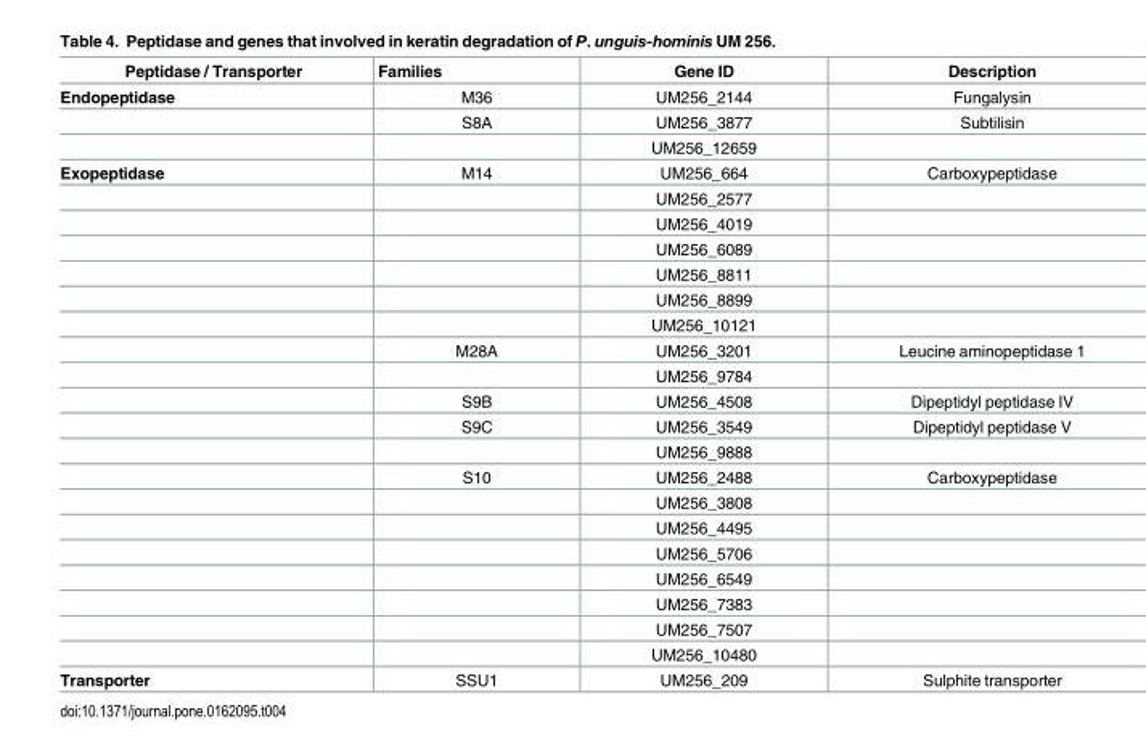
<table><thead><tr><td>Peptidase / Transporter</td><td>Families</td><td>Gene ID</td><td>Description</td></tr></thead><tbody><tr><td rowspan="3">Endopeptidase</td><td>M36</td><td>UM256_2144</td><td>Fungalysin</td></tr><tr><td>S8A</td><td>UM256_3877</td><td>Subtilisin</td></tr><tr><td></td><td>UM256_12659</td><td></td></tr><tr><td rowspan="20">Exopeptidase</td><td>M14</td><td>UM256_664</td><td>Carboxypeptidase</td></tr><tr><td></td><td>UM256_2577</td><td></td></tr><tr><td></td><td>UM256_4019</td><td></td></tr><tr><td></td><td>UM256_6089</td><td></td></tr><tr><td></td><td>UM256_8811</td><td></td></tr><tr><td></td><td>UM256_8899</td><td></td></tr><tr><td></td><td>UM256_10121</td><td></td></tr><tr><td>M28A</td><td>UM256_3201</td><td>Leucine aminopeptidase 1</td></tr><tr><td></td><td>UM256_9784</td><td></td></tr><tr><td>S9B</td><td>UM256_4508</td><td>Dipeptidyl peptidase IV</td></tr><tr><td>S9C</td><td>UM256_3549</td><td>Dipeptidyl peptidase V</td></tr><tr><td></td><td>UM256_9888</td><td></td></tr><tr><td>S10</td><td>UM256_2488</td><td>Carboxypeptidase</td></tr><tr><td></td><td>UM256_3808</td><td></td></tr><tr><td></td><td>UM256_4495</td><td></td></tr><tr><td></td><td>UM256_5706</td><td></td></tr><tr><td></td><td>UM256_6549</td><td></td></tr><tr><td></td><td>UM256_7383</td><td></td></tr><tr><td></td><td>UM256_7507</td><td></td></tr><tr><td></td><td>UM256_10480</td><td></td></tr><tr><td>Transporter</td><td>SSU1</td><td>UM256_209</td><td>Sulphite transporter</td></tr></tbody></table>